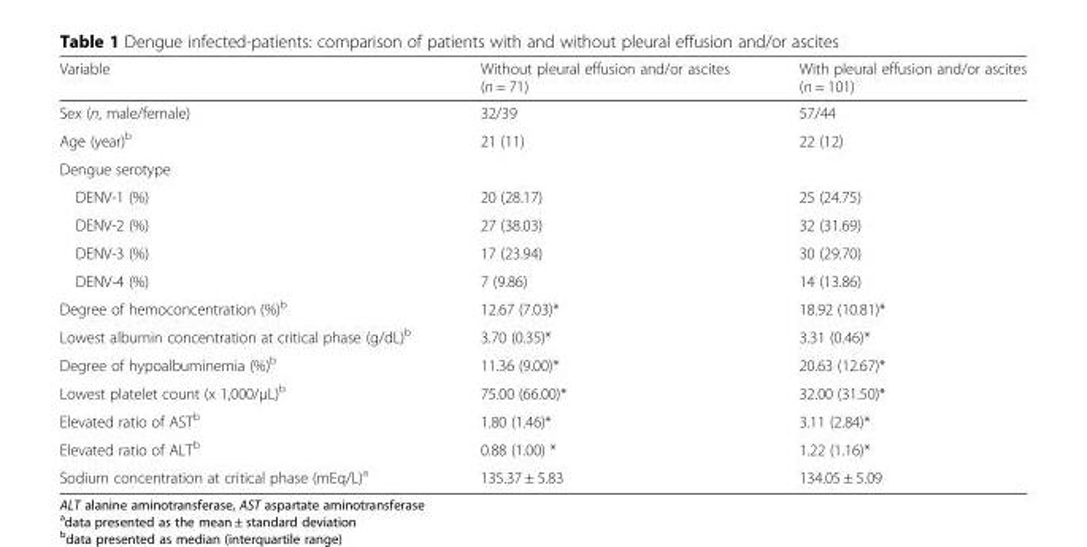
<table><thead><tr><td>Variable</td><td>Without pleural effusion and/or ascites (n = 71)</td><td>With pleural effusion and/or ascites (n = 101)</td></tr></thead><tbody><tr><td>Sex (n, male/female)</td><td>32/39</td><td>57/44</td></tr><tr><td>Age (year)<sup>b</sup></td><td>21 (11)</td><td>22 (12)</td></tr><tr><td colspan="3">Dengue serotype</td></tr><tr><td>DENV-1 (%)</td><td>20 (28.17)</td><td>25 (24.75)</td></tr><tr><td>DENV-2 (%)</td><td>27 (38.03)</td><td>32 (31.69)</td></tr><tr><td>DENV-3 (%)</td><td>17 (23.94)</td><td>30 (29.70)</td></tr><tr><td>DENV-4 (%)</td><td>7 (9.86)</td><td>14 (13.86)</td></tr><tr><td>Degree of hemoconcentration (%)<sup>b</sup></td><td>12.67 (7.03)*</td><td>18.92 (10.81)*</td></tr><tr><td>Lowest albumin concentration at critical phase (g/dL)<sup>b</sup></td><td>3.70 (0.35)*</td><td>3.31 (0.46)*</td></tr><tr><td>Degree of hypoalbuminemia (%)<sup>b</sup></td><td>11.36 (9.00)*</td><td>20.63 (12.67)*</td></tr><tr><td>Lowest platelet count (x 1,000/μL)<sup>b</sup></td><td>75.00 (66.00)*</td><td>32.00 (31.50)*</td></tr><tr><td>Elevated ratio of AST<sup>b</sup></td><td>1.80 (1.46)*</td><td>3.11 (2.84)*</td></tr><tr><td>Elevated ratio of ALT<sup>b</sup></td><td>0.88 (1.00) *</td><td>1.22 (1.16)*</td></tr><tr><td>Sodium concentration at critical phase (mEq/L)<sup>a</sup></td><td>135.37 ± 5.83</td><td>134.05 ± 5.09</td></tr></tbody></table>